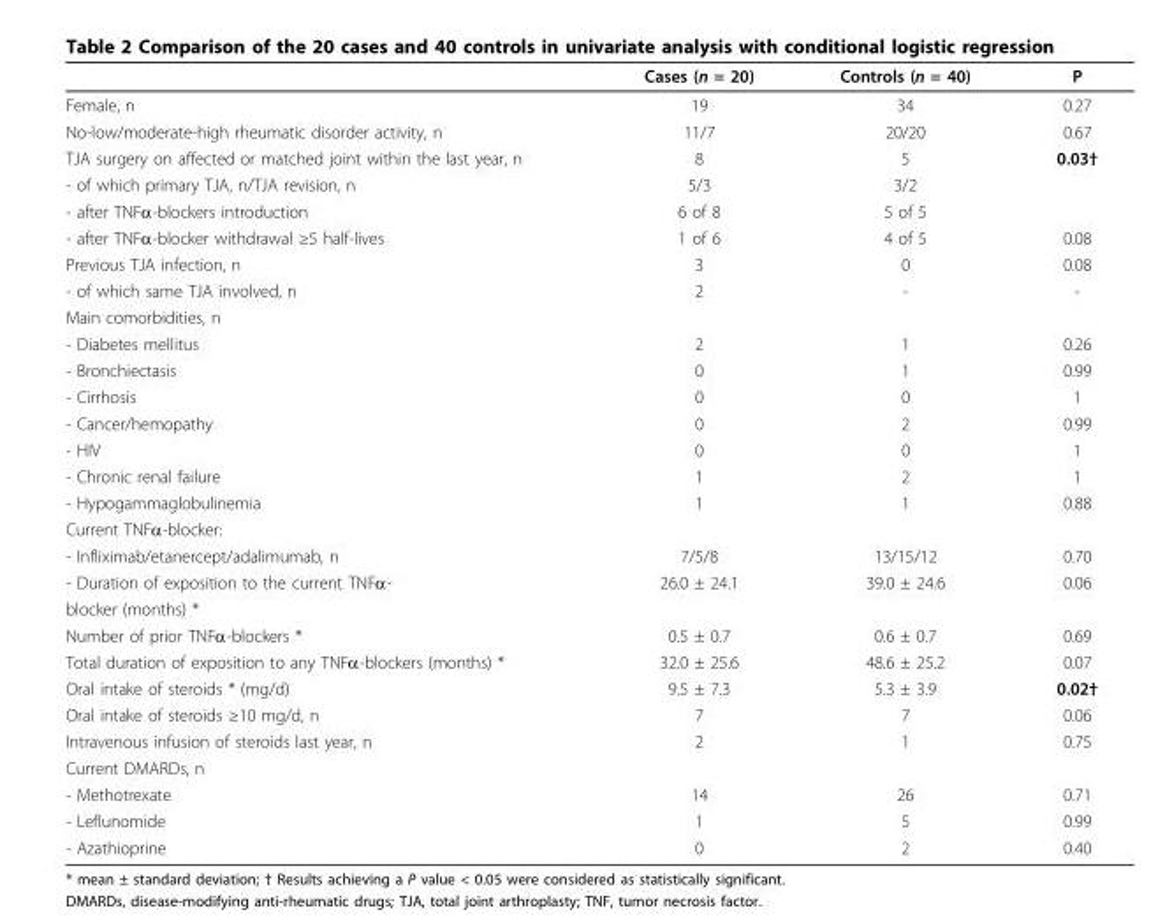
<table><thead><tr><td></td><td>Cases (n = 20)</td><td>Controls (n = 40)</td><td>P</td></tr></thead><tbody><tr><td>Female, n</td><td>19</td><td>34</td><td>0.27</td></tr><tr><td>No-low/moderate-high rheumatic disorder activity, n</td><td>11/7</td><td>20/20</td><td>0.67</td></tr><tr><td>TJA surgery on affected or matched joint within the last year, n</td><td>8</td><td>5</td><td>0.03†</td></tr><tr><td>- of which primary TJA, n/TJA revision, n</td><td>5/3</td><td>3/2</td><td></td></tr><tr><td>- after TNFα-blockers introduction</td><td>6 of 8</td><td>5 of 5</td><td></td></tr><tr><td>- after TNFα-blocker withdrawal ≥5 half-lives</td><td>1 of 6</td><td>4 of 5</td><td>0.08</td></tr><tr><td>Previous TJA infection, n</td><td>3</td><td>0</td><td>0.08</td></tr><tr><td>- of which same TJA involved, n</td><td>2</td><td>-</td><td>-</td></tr><tr><td colspan="4">Main comorbidities, n</td></tr><tr><td>- Diabetes mellitus</td><td>2</td><td>1</td><td>0.26</td></tr><tr><td>- Bronchiectasis</td><td>0</td><td>1</td><td>0.99</td></tr><tr><td>- Cirrhosis</td><td>0</td><td>0</td><td>1</td></tr><tr><td>- Cancer/hemopathy</td><td>0</td><td>2</td><td>0.99</td></tr><tr><td>- HIV</td><td>0</td><td>0</td><td>1</td></tr><tr><td>- Chronic renal failure</td><td>1</td><td>2</td><td>1</td></tr><tr><td>- Hypogammaglobulinemia</td><td>1</td><td>1</td><td>0.88</td></tr><tr><td colspan="4">Current TNFα-blocker:</td></tr><tr><td>- Infliximab/etanercept/adalimumab, n</td><td>7/5/8</td><td>13/15/12</td><td>0.70</td></tr><tr><td>- Duration of exposition to the current TNFα-</td><td>26.0 ± 24.1</td><td>39.0 ± 24.6</td><td>0.06</td></tr><tr><td colspan="4">blocker (months) *</td></tr><tr><td>Number of prior TNFα-blockers *</td><td>0.5 ± 0.7</td><td>0.6 ± 0.7</td><td>0.69</td></tr><tr><td>Total duration of exposition to any TNFα-blockers (months) *</td><td>32.0 ± 25.6</td><td>48.6 ± 25.2</td><td>0.07</td></tr><tr><td>Oral intake of steroids * (mg/d)</td><td>9.5 ± 7.3</td><td>5.3 ± 3.9</td><td>0.02†</td></tr><tr><td>Oral intake of steroids ≥10 mg/d, n</td><td>7</td><td>7</td><td>0.06</td></tr><tr><td>Intravenous infusion of steroids last year, n</td><td>2</td><td>1</td><td>0.75</td></tr><tr><td colspan="4">Current DMARDs, n</td></tr><tr><td>- Methotrexate</td><td>14</td><td>26</td><td>0.71</td></tr><tr><td>- Leflunomide</td><td>1</td><td>5</td><td>0.99</td></tr><tr><td>- Azathioprine</td><td>0</td><td>2</td><td>0.40</td></tr></tbody></table>